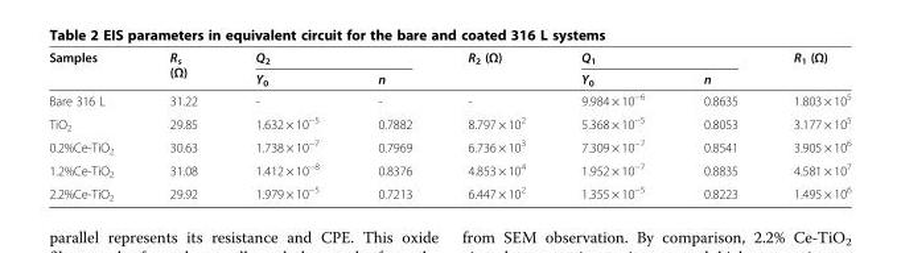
<table><thead><tr><td rowspan="2">Samples</td><td rowspan="2">R<sub>s</sub> (Ω)</td><td colspan="2">Q<sub>2</sub></td><td rowspan="2">R<sub>2</sub> (Ω)</td><td colspan="2">Q<sub>1</sub></td><td rowspan="2">R<sub>1</sub> (Ω)</td></tr><tr><td>Y<sub>0</sub></td><td>n</td><td>Y<sub>0</sub></td><td>n</td></tr></thead><tbody><tr><td>Bare 316 L</td><td>31.22</td><td>-</td><td>-</td><td>-</td><td>9.984 × 10<sup>−6</sup></td><td>0.8635</td><td>1.803 × 10<sup>5</sup></td></tr><tr><td>TiO<sub>2</sub></td><td>29.85</td><td>1.632 × 10<sup>−5</sup></td><td>0.7882</td><td>8.797 × 10<sup>2</sup></td><td>5.368 × 10<sup>−5</sup></td><td>0.8053</td><td>3.177 × 10<sup>5</sup></td></tr><tr><td>0.2%Ce-TiO<sub>2</sub></td><td>30.63</td><td>1.738 × 10<sup>−7</sup></td><td>0.7969</td><td>6.736 × 10<sup>3</sup></td><td>7.309 × 10<sup>−7</sup></td><td>0.8541</td><td>3.905 × 10<sup>6</sup></td></tr><tr><td>1.2%Ce-TiO<sub>2</sub></td><td>31.08</td><td>1.412 × 10<sup>−8</sup></td><td>0.8376</td><td>4.853 × 10<sup>4</sup></td><td>1.952 × 10<sup>−7</sup></td><td>0.8835</td><td>4.581 × 10<sup>7</sup></td></tr><tr><td>2.2%Ce-TiO<sub>2</sub></td><td>29.92</td><td>1.979 × 10<sup>−5</sup></td><td>0.7213</td><td>6.447 × 10<sup>2</sup></td><td>1.355 × 10<sup>−5</sup></td><td>0.8223</td><td>1.495 × 10<sup>6</sup></td></tr></tbody></table>